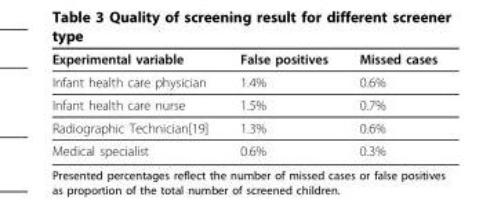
<table><thead><tr><td>Experimental variable</td><td>False positives</td><td>Missed cases</td></tr></thead><tbody><tr><td>Infant health care physician</td><td>1.4%</td><td>0.6%</td></tr><tr><td>Infant health care nurse</td><td>1.5%</td><td>0.7%</td></tr><tr><td>Radiographic Technician[19]</td><td>1.3%</td><td>0.6%</td></tr><tr><td>Medical specialist</td><td>0.6%</td><td>0.3%</td></tr></tbody></table>